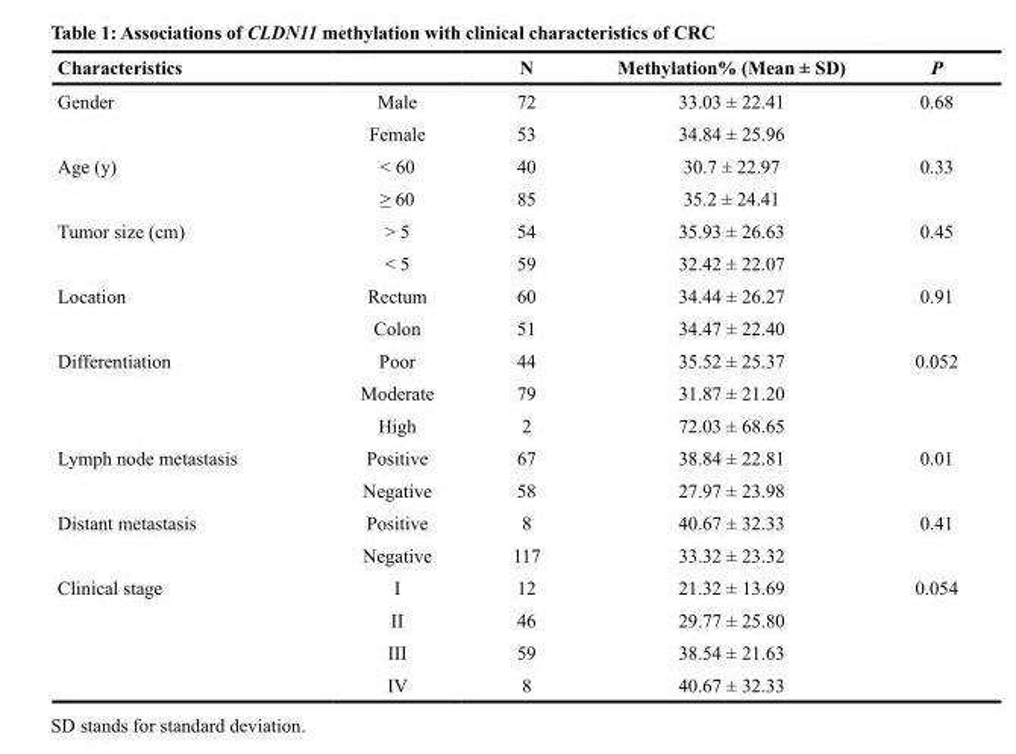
<table><thead><tr><td>Characteristics</td><td></td><td>N</td><td>Methylation% (Mean ± SD)</td><td>P</td></tr></thead><tbody><tr><td rowspan="2">Gender</td><td>Male</td><td>72</td><td>33.03 ± 22.41</td><td>0.68</td></tr><tr><td>Female</td><td>53</td><td>34.84 ± 25.96</td><td></td></tr><tr><td rowspan="2">Age (y)</td><td>&lt; 60</td><td>40</td><td>30.7 ± 22.97</td><td>0.33</td></tr><tr><td>≥ 60</td><td>85</td><td>35.2 ± 24.41</td><td></td></tr><tr><td rowspan="2">Tumor size (cm)</td><td>&gt; 5</td><td>54</td><td>35.93 ± 26.63</td><td>0.45</td></tr><tr><td>&lt; 5</td><td>59</td><td>32.42 ± 22.07</td><td></td></tr><tr><td rowspan="2">Location</td><td>Rectum</td><td>60</td><td>34.44 ± 26.27</td><td>0.91</td></tr><tr><td>Colon</td><td>51</td><td>34.47 ± 22.40</td><td></td></tr><tr><td rowspan="3">Differentiation</td><td>Poor</td><td>44</td><td>35.52 ± 25.37</td><td>0.052</td></tr><tr><td>Moderate</td><td>79</td><td>31.87 ± 21.20</td><td></td></tr><tr><td>High</td><td>2</td><td>72.03 ± 68.65</td><td></td></tr><tr><td rowspan="2">Lymph node metastasis</td><td>Positive</td><td>67</td><td>38.84 ± 22.81</td><td>0.01</td></tr><tr><td>Negative</td><td>58</td><td>27.97 ± 23.98</td><td></td></tr><tr><td rowspan="2">Distant metastasis</td><td>Positive</td><td>8</td><td>40.67 ± 32.33</td><td>0.41</td></tr><tr><td>Negative</td><td>117</td><td>33.32 ± 23.32</td><td></td></tr><tr><td rowspan="4">Clinical stage</td><td>I</td><td>12</td><td>21.32 ± 13.69</td><td>0.054</td></tr><tr><td>II</td><td>46</td><td>29.77 ± 25.80</td><td></td></tr><tr><td>III</td><td>59</td><td>38.54 ± 21.63</td><td></td></tr><tr><td>IV</td><td>8</td><td>40.67 ± 32.33</td><td></td></tr></tbody></table>